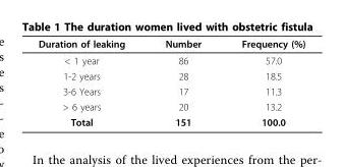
<table><thead><tr><td>Duration of leaking</td><td>Number</td><td>Frequency (%)</td></tr></thead><tbody><tr><td>&lt; 1 year</td><td>86</td><td>57.0</td></tr><tr><td>1-2 years</td><td>28</td><td>18.5</td></tr><tr><td>3-6 Years</td><td>17</td><td>11.3</td></tr><tr><td>&gt; 6 years</td><td>20</td><td>13.2</td></tr><tr><td>Total</td><td>151</td><td>100.0</td></tr></tbody></table>